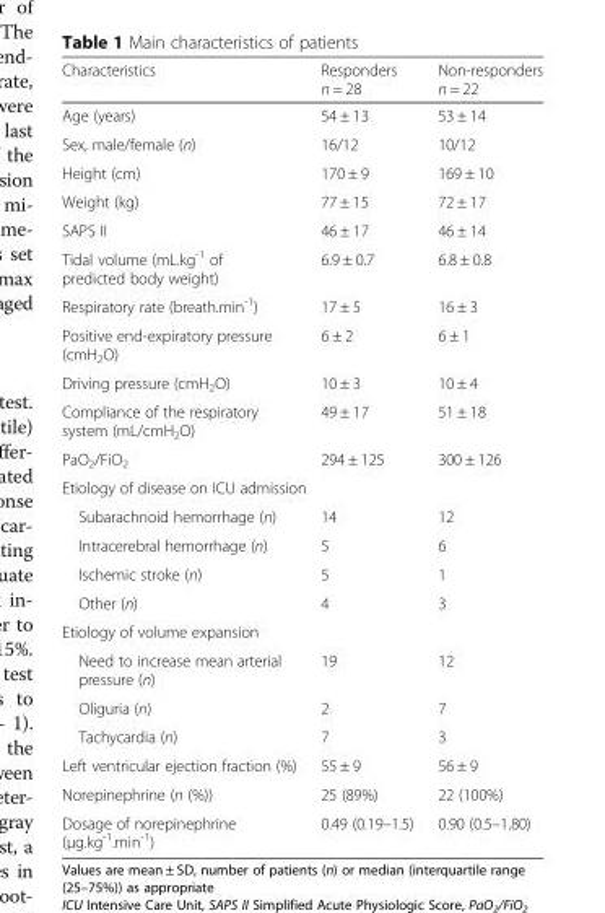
<table><thead><tr><td>Characteristics</td><td>Responders n = 28</td><td>Non-responders n = 22</td></tr></thead><tbody><tr><td>Age (years)</td><td>54 ± 13</td><td>53 ± 14</td></tr><tr><td>Sex, male/female (n)</td><td>16/12</td><td>10/12</td></tr><tr><td>Height (cm)</td><td>170 ± 9</td><td>169 ± 10</td></tr><tr><td>Weight (kg)</td><td>77 ± 15</td><td>72 ± 17</td></tr><tr><td>SAPS II</td><td>46 ± 17</td><td>46 ± 14</td></tr><tr><td>Tidal volume (mL.kg<sup>-1</sup> of predicted body weight)</td><td>6.9 ± 0.7</td><td>6.8 ± 0.8</td></tr><tr><td>Respiratory rate (breath.min<sup>-1</sup>)</td><td>17 ± 5</td><td>16 ± 3</td></tr><tr><td>Positive end-expiratory pressure (cmH<sub>2</sub>O)</td><td>6 ± 2</td><td>6 ± 1</td></tr><tr><td>Driving pressure (cmH<sub>2</sub>O)</td><td>10 ± 3</td><td>10 ± 4</td></tr><tr><td>Compliance of the respiratory system (mL/cmH<sub>2</sub>O)</td><td>49 ± 17</td><td>51 ± 18</td></tr><tr><td>PaO<sub>2</sub>/FiO<sub>2</sub></td><td>294 ± 125</td><td>300 ± 126</td></tr><tr><td colspan="3">Etiology of disease on ICU admission</td></tr><tr><td>Subarachnoid hemorrhage (n)</td><td>14</td><td>12</td></tr><tr><td>Intracerebral hemorrhage (n)</td><td>5</td><td>6</td></tr><tr><td>Ischemic stroke (n)</td><td>5</td><td>1</td></tr><tr><td>Other (n)</td><td>4</td><td>3</td></tr><tr><td colspan="3">Etiology of volume expansion</td></tr><tr><td>Need to increase mean arterial pressure (n)</td><td>19</td><td>12</td></tr><tr><td>Oliguria (n)</td><td>2</td><td>7</td></tr><tr><td>Tachycardia (n)</td><td>7</td><td>3</td></tr><tr><td>Left ventricular ejection fraction (%)</td><td>55 ± 9</td><td>56 ± 9</td></tr><tr><td>Norepinephrine (n (%))</td><td>25 (89%)</td><td>22 (100%)</td></tr><tr><td>Dosage of norepinephrine (μg.kg<sup>-1</sup>.min<sup>-1</sup>)</td><td>0.49 (0.19–1.5)</td><td>0.90 (0.5–1.80)</td></tr></tbody></table>